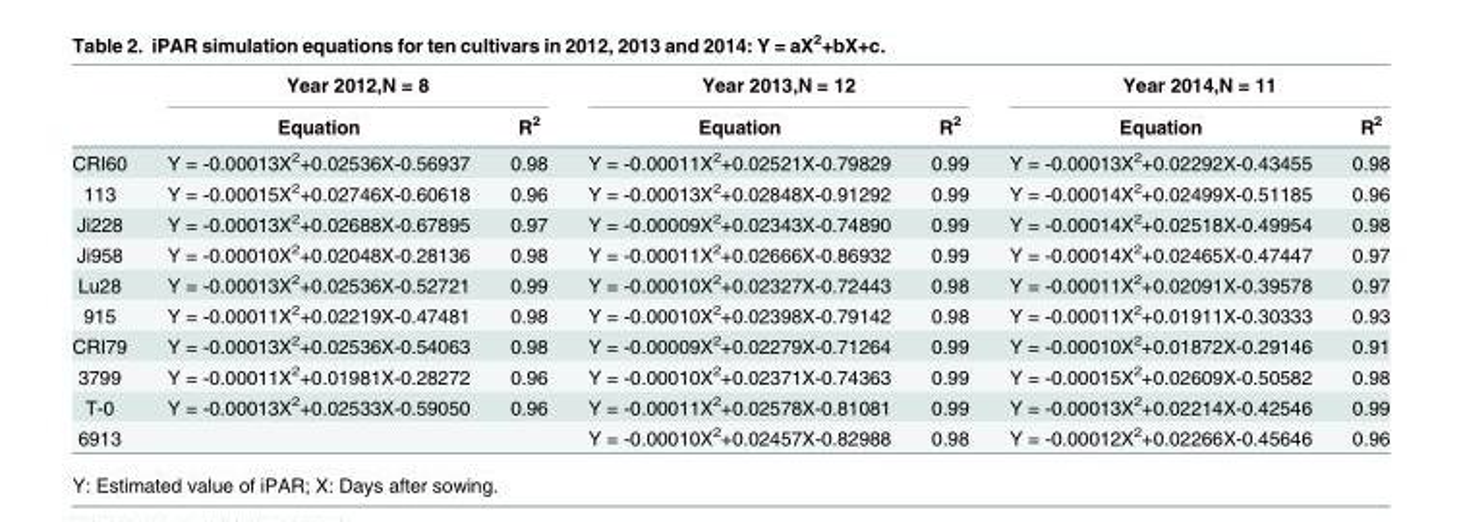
<table><thead><tr><td rowspan="2"></td><td colspan="2">Year 2012,N = 8</td><td colspan="2">Year 2013,N = 12</td><td colspan="2">Year 2014,N = 11</td></tr><tr><td>Equation</td><td>R<sup>2</sup></td><td>Equation</td><td>R<sup>2</sup></td><td>Equation</td><td>R<sup>2</sup></td></tr></thead><tbody><tr><td>CRI60</td><td>Y = -0.00013X<sup>2</sup>+0.02536X-0.56937</td><td>0.98</td><td>Y = -0.00011X<sup>2</sup>+0.02521X-0.79829</td><td>0.99</td><td>Y = -0.00013X<sup>2</sup>+0.02292X-0.43455</td><td>0.98</td></tr><tr><td>113</td><td>Y = -0.00015X<sup>2</sup>+0.02746X-0.60618</td><td>0.96</td><td>Y = -0.00013X<sup>2</sup>+0.02848X-0.91292</td><td>0.99</td><td>Y = -0.00014X<sup>2</sup>+0.02499X-0.51185</td><td>0.96</td></tr><tr><td>Ji228</td><td>Y = -0.00013X<sup>2</sup>+0.02688X-0.67895</td><td>0.97</td><td>Y = -0.00009X<sup>2</sup>+0.02343X-0.74890</td><td>0.99</td><td>Y = -0.00014X<sup>2</sup>+0.02518X-0.49954</td><td>0.98</td></tr><tr><td>Ji958</td><td>Y = -0.00010X<sup>2</sup>+0.02048X-0.28136</td><td>0.98</td><td>Y = -0.00011X<sup>2</sup>+0.02666X-0.86932</td><td>0.99</td><td>Y = -0.00014X<sup>2</sup>+0.02465X-0.47447</td><td>0.97</td></tr><tr><td>Lu28</td><td>Y = -0.00013X<sup>2</sup>+0.02536X-0.52721</td><td>0.99</td><td>Y = -0.00010X<sup>2</sup>+0.02327X-0.72443</td><td>0.98</td><td>Y = -0.00011X<sup>2</sup>+0.02091X-0.39578</td><td>0.97</td></tr><tr><td>915</td><td>Y = -0.00011X<sup>2</sup>+0.02219X-0.47481</td><td>0.98</td><td>Y = -0.00010X<sup>2</sup>+0.02398X-0.79142</td><td>0.98</td><td>Y = -0.00011X<sup>2</sup>+0.01911X-0.30333</td><td>0.93</td></tr><tr><td>CRI79</td><td>Y = -0.00013X<sup>2</sup>+0.02536X-0.54063</td><td>0.98</td><td>Y = -0.00009X<sup>2</sup>+0.02279X-0.71264</td><td>0.99</td><td>Y = -0.00010X<sup>2</sup>+0.01872X-0.29146</td><td>0.91</td></tr><tr><td>3799</td><td>Y = -0.00011X<sup>2</sup>+0.01981X-0.28272</td><td>0.96</td><td>Y = -0.00010X<sup>2</sup>+0.02371X-0.74363</td><td>0.99</td><td>Y = -0.00015X<sup>2</sup>+0.02609X-0.50582</td><td>0.98</td></tr><tr><td>T-0</td><td>Y = -0.00013X<sup>2</sup>+0.02533X-0.59050</td><td>0.96</td><td>Y = -0.00011X<sup>2</sup>+0.02578X-0.81081</td><td>0.99</td><td>Y = -0.00013X<sup>2</sup>+0.02214X-0.42546</td><td>0.99</td></tr><tr><td>6913</td><td></td><td></td><td>Y = -0.00010X<sup>2</sup>+0.02457X-0.82988</td><td>0.98</td><td>Y = -0.00012X<sup>2</sup>+0.02266X-0.45646</td><td>0.96</td></tr></tbody></table>